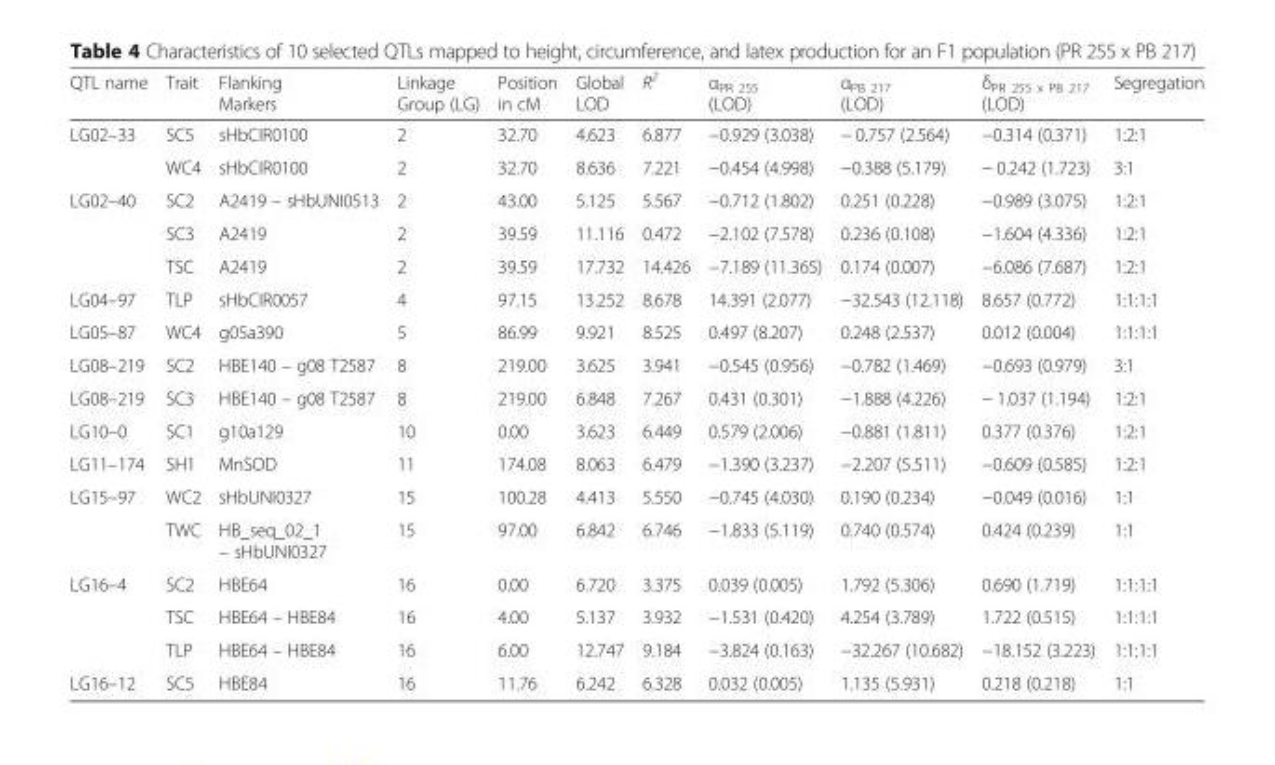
<table><thead><tr><td>QTL name</td><td>Trait</td><td>Flanking Markers</td><td>Linkage Group (LG)</td><td>Position in cM</td><td>Global LOD</td><td>R<sup>2</sup></td><td>α<sub>PR 255</sub> (LOD)</td><td>α<sub>PB 217</sub> (LOD)</td><td>δ<sub>PR 255 x PB 217</sub> (LOD)</td><td>Segregation</td></tr></thead><tbody><tr><td rowspan="2">LG02–33</td><td>SC5</td><td>sHbCIR0100</td><td>2</td><td>32.70</td><td>4.623</td><td>6.877</td><td>−0.929 (3.038)</td><td>− 0.757 (2.564)</td><td>−0.314 (0.371)</td><td>1:2:1</td></tr><tr><td>WC4</td><td>sHbCIR0100</td><td>2</td><td>32.70</td><td>8.636</td><td>7.221</td><td>−0.454 (4.998)</td><td>−0.388 (5.179)</td><td>− 0.242 (1.723)</td><td>3:1</td></tr><tr><td rowspan="3">LG02–40</td><td>SC2</td><td>A2419 – sHbUNI0513</td><td>2</td><td>43.00</td><td>5.125</td><td>5.567</td><td>−0.712 (1.802)</td><td>0.251 (0.228)</td><td>−0.989 (3.075)</td><td>1:2:1</td></tr><tr><td>SC3</td><td>A2419</td><td>2</td><td>39.59</td><td>11.116</td><td>0.472</td><td>−2.102 (7.578)</td><td>0.236 (0.108)</td><td>−1.604 (4.336)</td><td>1:2:1</td></tr><tr><td>TSC</td><td>A2419</td><td>2</td><td>39.59</td><td>17.732</td><td>14.426</td><td>−7.189 (11.365)</td><td>0.174 (0.007)</td><td>−6.086 (7.687)</td><td>1:2:1</td></tr><tr><td>LG04–97</td><td>TLP</td><td>sHbCIR0057</td><td>4</td><td>97.15</td><td>13.252</td><td>8.678</td><td>14.391 (2.077)</td><td>−32.543 (12.118)</td><td>8.657 (0.772)</td><td>1:1:1:1</td></tr><tr><td>LG05–87</td><td>WC4</td><td>g05a390</td><td>5</td><td>86.99</td><td>9.921</td><td>8.525</td><td>0.497 (8.207)</td><td>0.248 (2.537)</td><td>0.012 (0.004)</td><td>1:1:1:1</td></tr><tr><td>LG08–219</td><td>SC2</td><td>HBE140 – g08 T2587</td><td>8</td><td>219.00</td><td>3.625</td><td>3.941</td><td>−0.545 (0.956)</td><td>−0.782 (1.469)</td><td>−0.693 (0.979)</td><td>3:1</td></tr><tr><td>LG08–219</td><td>SC3</td><td>HBE140 – g08 T2587</td><td>8</td><td>219.00</td><td>6.848</td><td>7.267</td><td>0.431 (0.301)</td><td>−1.888 (4.226)</td><td>− 1.037 (1.194)</td><td>1:2:1</td></tr><tr><td>LG10–0</td><td>SC1</td><td>g10a129</td><td>10</td><td>0.00</td><td>3.623</td><td>6.449</td><td>0.579 (2.006)</td><td>−0.881 (1.811)</td><td>0.377 (0.376)</td><td>1:2:1</td></tr><tr><td>LG11–174</td><td>SH1</td><td>MnSOD</td><td>11</td><td>174.08</td><td>8.063</td><td>6.479</td><td>−1.390 (3.237)</td><td>−2.207 (5.511)</td><td>−0.609 (0.585)</td><td>1:2:1</td></tr><tr><td rowspan="2">LG15–97</td><td>WC2</td><td>sHbUNI0327</td><td>15</td><td>100.28</td><td>4.413</td><td>5.550</td><td>−0.745 (4.030)</td><td>0.190 (0.234)</td><td>−0.049 (0.016)</td><td>1:1</td></tr><tr><td>TWC</td><td>HB_seq_02_1 – sHbUNI0327</td><td>15</td><td>97.00</td><td>6.842</td><td>6.746</td><td>−1.833 (5.119)</td><td>0.740 (0.574)</td><td>0.424 (0.239)</td><td>1:1</td></tr><tr><td rowspan="3">LG16–4</td><td>SC2</td><td>HBE64</td><td>16</td><td>0.00</td><td>6.720</td><td>3.375</td><td>0.039 (0.005)</td><td>1.792 (5.306)</td><td>0.690 (1.719)</td><td>1:1:1:1</td></tr><tr><td>TSC</td><td>HBE64 – HBE84</td><td>16</td><td>4.00</td><td>5.137</td><td>3.932</td><td>−1.531 (0.420)</td><td>4.254 (3.789)</td><td>1.722 (0.515)</td><td>1:1:1:1</td></tr><tr><td>TLP</td><td>HBE64 – HBE84</td><td>16</td><td>6.00</td><td>12.747</td><td>9.184</td><td>−3.824 (0.163)</td><td>−32.267 (10.682)</td><td>−18.152 (3.223)</td><td>1:1:1:1</td></tr><tr><td>LG16–12</td><td>SC5</td><td>HBE84</td><td>16</td><td>11.76</td><td>6.242</td><td>6.328</td><td>0.032 (0.005)</td><td>1.135 (5.931)</td><td>0.218 (0.218)</td><td>1:1</td></tr></tbody></table>